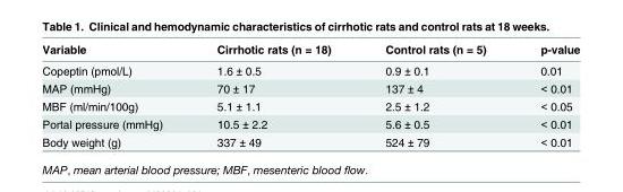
<table><thead><tr><td>Variable</td><td>Cirrhotic rats (n = 18)</td><td>Control rats (n = 5)</td><td>p-value</td></tr></thead><tbody><tr><td>Copeptin (pmol/L)</td><td>1.6 ± 0.5</td><td>0.9 ± 0.1</td><td>0.01</td></tr><tr><td>MAP (mmHg)</td><td>70 ± 17</td><td>137 ± 4</td><td>&lt; 0.01</td></tr><tr><td>MBF (ml/min/100g)</td><td>5.1 ± 1.1</td><td>2.5 ± 1.2</td><td>&lt; 0.05</td></tr><tr><td>Portal pressure (mmHg)</td><td>10.5 ± 2.2</td><td>5.6 ± 0.5</td><td>&lt; 0.01</td></tr><tr><td>Body weight (g)</td><td>337 ± 49</td><td>524 ± 79</td><td>&lt; 0.01</td></tr></tbody></table>